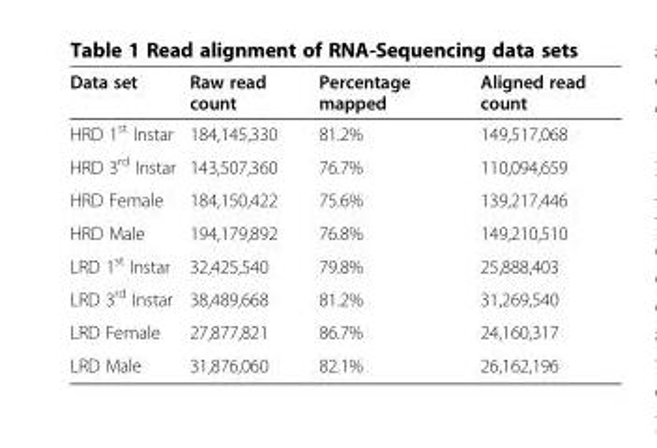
<table><thead><tr><td>Data set</td><td>Raw read count</td><td>Percentage mapped</td><td>Aligned read count</td></tr></thead><tbody><tr><td>HRD 1<sup>st</sup> Instar</td><td>184,145,330</td><td>81.2%</td><td>149,517,068</td></tr><tr><td>HRD 3<sup>rd</sup> Instar</td><td>143,507,360</td><td>76.7%</td><td>110,094,659</td></tr><tr><td>HRD Female</td><td>184,150,422</td><td>75.6%</td><td>139,217,446</td></tr><tr><td>HRD Male</td><td>194,179,892</td><td>76.8%</td><td>149,210,510</td></tr><tr><td>LRD 1<sup>st</sup> Instar</td><td>32,425,540</td><td>79.8%</td><td>25,888,403</td></tr><tr><td>LRD 3<sup>rd</sup> Instar</td><td>38,489,668</td><td>81.2%</td><td>31,269,540</td></tr><tr><td>LRD Female</td><td>27,877,821</td><td>86.7%</td><td>24,160,317</td></tr><tr><td>LRD Male</td><td>31,876,060</td><td>82.1%</td><td>26,162,196</td></tr></tbody></table>